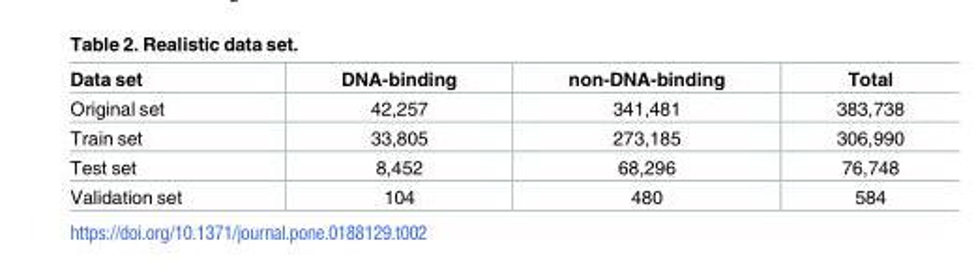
<table><thead><tr><td>Data set</td><td>DNA-binding</td><td>non-DNA-binding</td><td>Total</td></tr></thead><tbody><tr><td>Original set</td><td>42,257</td><td>341,481</td><td>383,738</td></tr><tr><td>Train set</td><td>33,805</td><td>273,185</td><td>306,990</td></tr><tr><td>Test set</td><td>8,452</td><td>68,296</td><td>76,748</td></tr><tr><td>Validation set</td><td>104</td><td>480</td><td>584</td></tr></tbody></table>